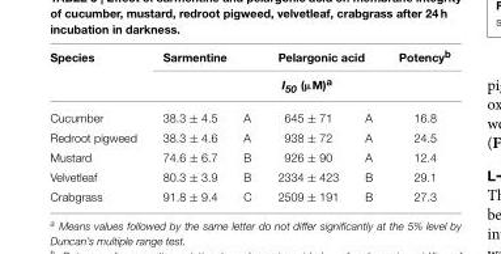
<table><thead><tr><td rowspan="2">Species</td><td>Sarmentine</td><td></td><td>Pelargonic acid</td><td></td><td>Potency<sup>b</sup></td></tr><tr><td colspan="5">I<sub>50</sub> (µM)<sup>a</sup></td></tr></thead><tbody><tr><td>Cucumber</td><td>38.3 ± 4.5</td><td>A</td><td>645 ± 71</td><td>A</td><td>16.8</td></tr><tr><td>Redroot pigweed</td><td>38.3 ± 4.6</td><td>A</td><td>938 ± 72</td><td>A</td><td>24.5</td></tr><tr><td>Mustard</td><td>74.6 ± 6.7</td><td>B</td><td>926 ± 90</td><td>A</td><td>12.4</td></tr><tr><td>Velvetleaf</td><td>80.3 ± 3.9</td><td>B</td><td>2334 ± 423</td><td>B</td><td>29.1</td></tr><tr><td>Crabgrass</td><td>91.8 ± 9.4</td><td>C</td><td>2509 ± 191</td><td>B</td><td>27.3</td></tr></tbody></table>